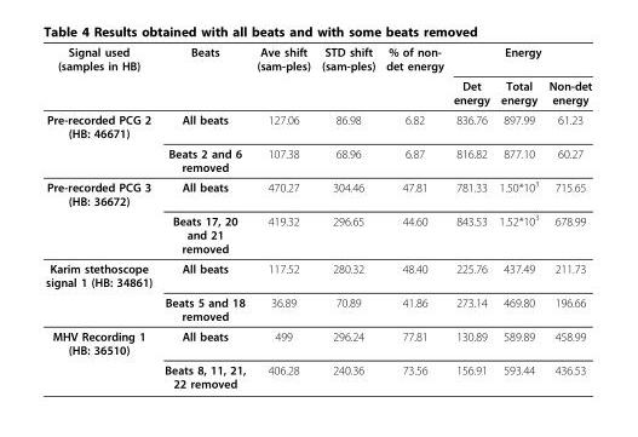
<table><thead><tr><td rowspan="2">Signal used (samples in HB)</td><td rowspan="2">Beats</td><td rowspan="2">Ave shift (sam-ples)</td><td rowspan="2">STD shift (sam-ples)</td><td rowspan="2">% of non- det energy</td><td colspan="3">Energy</td></tr><tr><td>Det energy</td><td>Total energy</td><td>Non-det energy</td></tr></thead><tbody><tr><td rowspan="2">Pre-recorded PCG 2 (HB: 46671)</td><td>All beats</td><td>127.06</td><td>86.98</td><td>6.82</td><td>836.76</td><td>897.99</td><td>61.23</td></tr><tr><td>Beats 2 and 6 removed</td><td>107.38</td><td>68.96</td><td>6.87</td><td>816.82</td><td>877.10</td><td>60.27</td></tr><tr><td rowspan="2">Pre-recorded PCG 3 (HB: 36672)</td><td>All beats</td><td>470.27</td><td>304.46</td><td>47.81</td><td>781.33</td><td>1.50*10<sup>3</sup></td><td>715.65</td></tr><tr><td>Beats 17, 20 and 21 removed</td><td>419.32</td><td>296.65</td><td>44.60</td><td>843.53</td><td>1.52*10<sup>3</sup></td><td>678.99</td></tr><tr><td rowspan="2">Karim stethoscope signal 1 (HB: 34861)</td><td>All beats</td><td>117.52</td><td>280.32</td><td>48.40</td><td>225.76</td><td>437.49</td><td>211.73</td></tr><tr><td>Beats 5 and 18 removed</td><td>36.89</td><td>70.89</td><td>41.86</td><td>273.14</td><td>469.80</td><td>196.66</td></tr><tr><td rowspan="2">MHV Recording 1 (HB: 36510)</td><td>All beats</td><td>499</td><td>296.24</td><td>77.81</td><td>130.89</td><td>589.89</td><td>458.99</td></tr><tr><td>Beats 8, 11, 21, 22 removed</td><td>406.28</td><td>240.36</td><td>73.56</td><td>156.91</td><td>593.44</td><td>436.53</td></tr></tbody></table>